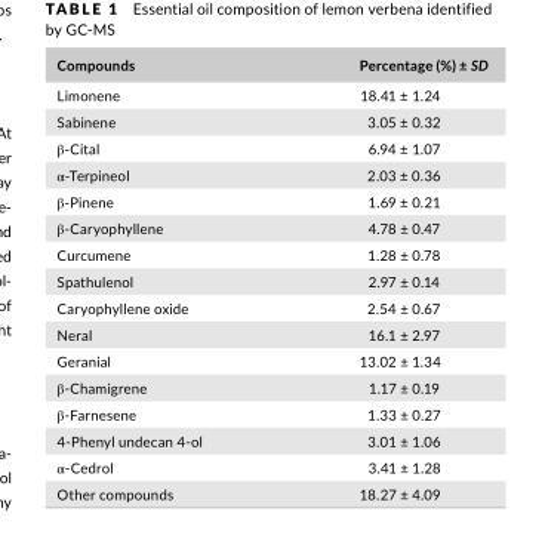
<table><thead><tr><td>Compounds</td><td>Percentage (%) ± SD</td></tr></thead><tbody><tr><td>Limonene</td><td>18.41 ± 1.24</td></tr><tr><td>Sabinene</td><td>3.05 ± 0.32</td></tr><tr><td>β- Cital</td><td>6.94 ± 1.07</td></tr><tr><td>α- Terpineol</td><td>2.03 ± 0.36</td></tr><tr><td>β- Pinene</td><td>1.69 ± 0.21</td></tr><tr><td>β- Caryophyllene</td><td>4.78 ± 0.47</td></tr><tr><td>Curcumene</td><td>1.28 ± 0.78</td></tr><tr><td>Spathulenol</td><td>2.97 ± 0.14</td></tr><tr><td>Caryophyllene oxide</td><td>2.54 ± 0.67</td></tr><tr><td>Neral</td><td>16.1 ± 2.97</td></tr><tr><td>Geranial</td><td>13.02 ± 1.34</td></tr><tr><td>β- Chamigrene</td><td>1.17 ± 0.19</td></tr><tr><td>β- Farnesene</td><td>1.33 ± 0.27</td></tr><tr><td>4- Phenyl undecan 4- ol</td><td>3.01 ± 1.06</td></tr><tr><td>α- Cedrol</td><td>3.41 ± 1.28</td></tr><tr><td>Other compounds</td><td>18.27 ± 4.09</td></tr></tbody></table>